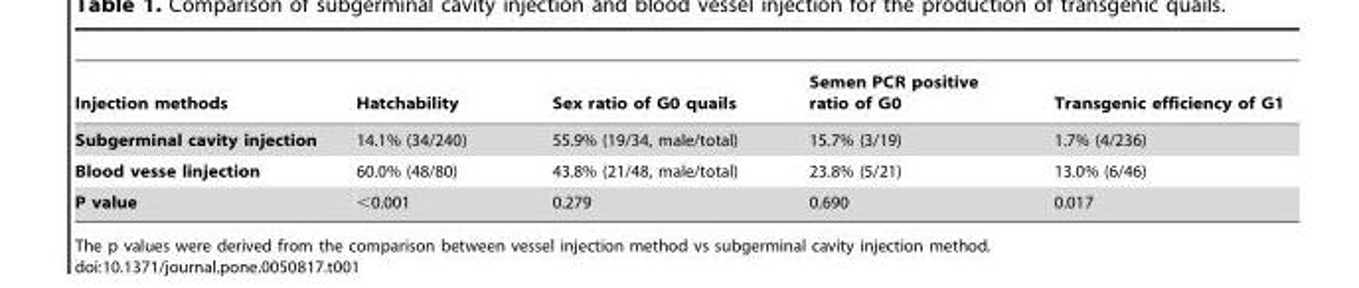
<table><thead><tr><td>Injection methods</td><td>Hatchability</td><td>Sex ratio of G0 quails</td><td>Semen PCR positive ratio of G0</td><td>Transgenic efficiency of G1</td></tr></thead><tbody><tr><td>Subgerminal cavity injection</td><td>14.1% (34/240)</td><td>55.9% (19/34, male/total)</td><td>15.7% (3/19)</td><td>1.7% (4/236)</td></tr><tr><td>Blood vesse linjection</td><td>60.0% (48/80)</td><td>43.8% (21/48, male/total)</td><td>23.8% (5/21)</td><td>13.0% (6/46)</td></tr><tr><td>P value</td><td>&lt;0.001</td><td>0.279</td><td>0.690</td><td>0.017</td></tr></tbody></table>